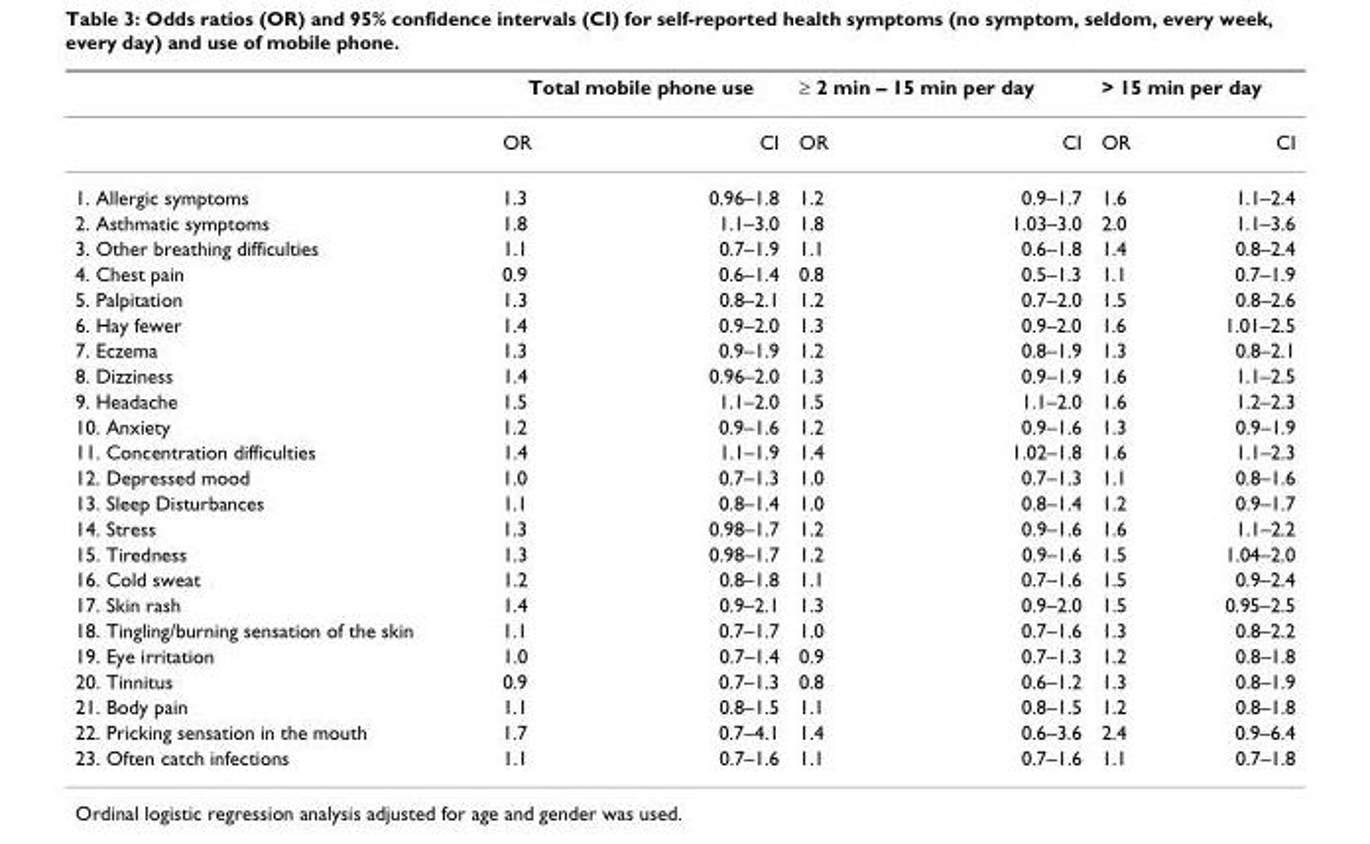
<table><thead><tr><td rowspan="2"></td><td colspan="2">Total mobile phone use</td><td colspan="2">≥ 2 min – 15 min per day</td><td colspan="2">&gt; 15 min per day</td></tr><tr><td>OR</td><td>CI</td><td>OR</td><td>CI</td><td>OR</td><td>CI</td></tr></thead><tbody><tr><td>1. Allergic symptoms</td><td>1.3</td><td>0.96–1.8</td><td>1.2</td><td>0.9–1.7</td><td>1.6</td><td>1.1–2.4</td></tr><tr><td>2. Asthmatic symptoms</td><td>1.8</td><td>1.1–3.0</td><td>1.8</td><td>1.03–3.0</td><td>2.0</td><td>1.1–3.6</td></tr><tr><td>3. Other breathing difficulties</td><td>1.1</td><td>0.7–1.9</td><td>1.1</td><td>0.6–1.8</td><td>1.4</td><td>0.8–2.4</td></tr><tr><td>4. Chest pain</td><td>0.9</td><td>0.6–1.4</td><td>0.8</td><td>0.5–1.3</td><td>1.1</td><td>0.7–1.9</td></tr><tr><td>5. Palpitation</td><td>1.3</td><td>0.8–2.1</td><td>1.2</td><td>0.7–2.0</td><td>1.5</td><td>0.8–2.6</td></tr><tr><td>6. Hay fewer</td><td>1.4</td><td>0.9–2.0</td><td>1.3</td><td>0.9–2.0</td><td>1.6</td><td>1.01–2.5</td></tr><tr><td>7. Eczema</td><td>1.3</td><td>0.9–1.9</td><td>1.2</td><td>0.8–1.9</td><td>1.3</td><td>0.8–2.1</td></tr><tr><td>8. Dizziness</td><td>1.4</td><td>0.96–2.0</td><td>1.3</td><td>0.9–1.9</td><td>1.6</td><td>1.1–2.5</td></tr><tr><td>9. Headache</td><td>1.5</td><td>1.1–2.0</td><td>1.5</td><td>1.1–2.0</td><td>1.6</td><td>1.2–2.3</td></tr><tr><td>10. Anxiety</td><td>1.2</td><td>0.9–1.6</td><td>1.2</td><td>0.9–1.6</td><td>1.3</td><td>0.9–1.9</td></tr><tr><td>11. Concentration difficulties</td><td>1.4</td><td>1.1–1.9</td><td>1.4</td><td>1.02–1.8</td><td>1.6</td><td>1.1–2.3</td></tr><tr><td>12. Depressed mood</td><td>1.0</td><td>0.7–1.3</td><td>1.0</td><td>0.7–1.3</td><td>1.1</td><td>0.8–1.6</td></tr><tr><td>13. Sleep Disturbances</td><td>1.1</td><td>0.8–1.4</td><td>1.0</td><td>0.8–1.4</td><td>1.2</td><td>0.9–1.7</td></tr><tr><td>14. Stress</td><td>1.3</td><td>0.98–1.7</td><td>1.2</td><td>0.9–1.6</td><td>1.6</td><td>1.1–2.2</td></tr><tr><td>15. Tiredness</td><td>1.3</td><td>0.98–1.7</td><td>1.2</td><td>0.9–1.6</td><td>1.5</td><td>1.04–2.0</td></tr><tr><td>16. Cold sweat</td><td>1.2</td><td>0.8–1.8</td><td>1.1</td><td>0.7–1.6</td><td>1.5</td><td>0.9–2.4</td></tr><tr><td>17. Skin rash</td><td>1.4</td><td>0.9–2.1</td><td>1.3</td><td>0.9–2.0</td><td>1.5</td><td>0.95–2.5</td></tr><tr><td>18. Tingling/burning sensation of the skin</td><td>1.1</td><td>0.7–1.7</td><td>1.0</td><td>0.7–1.6</td><td>1.3</td><td>0.8–2.2</td></tr><tr><td>19. Eye irritation</td><td>1.0</td><td>0.7–1.4</td><td>0.9</td><td>0.7–1.3</td><td>1.2</td><td>0.8–1.8</td></tr><tr><td>20. Tinnitus</td><td>0.9</td><td>0.7–1.3</td><td>0.8</td><td>0.6–1.2</td><td>1.3</td><td>0.8–1.9</td></tr><tr><td>21. Body pain</td><td>1.1</td><td>0.8–1.5</td><td>1.1</td><td>0.8–1.5</td><td>1.2</td><td>0.8–1.8</td></tr><tr><td>22. Pricking sensation in the mouth</td><td>1.7</td><td>0.7–4.1</td><td>1.4</td><td>0.6–3.6</td><td>2.4</td><td>0.9–6.4</td></tr><tr><td>23. Often catch infections</td><td>1.1</td><td>0.7–1.6</td><td>1.1</td><td>0.7–1.6</td><td>1.1</td><td>0.7–1.8</td></tr></tbody></table>